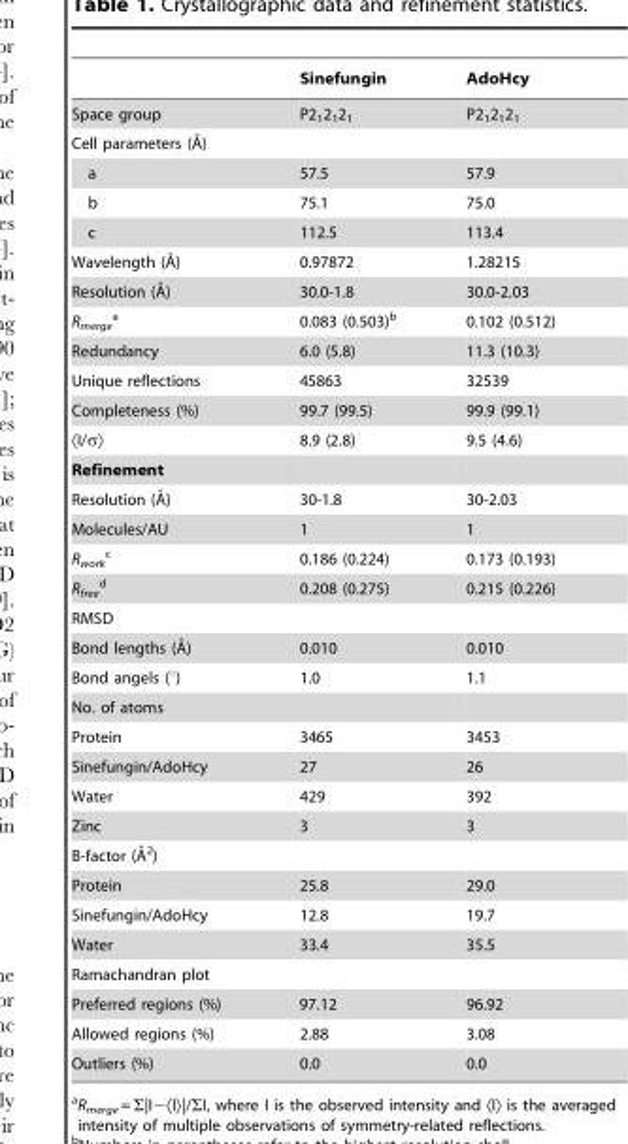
<table><thead><tr><td></td><td>Sinefungin</td><td>AdoHcy</td></tr></thead><tbody><tr><td>Space group</td><td>P2<sub>1</sub>2<sub>1</sub>2<sub>1</sub></td><td>P2<sub>1</sub>2<sub>1</sub>2<sub>1</sub></td></tr><tr><td colspan="3">Cell parameters (A˚)</td></tr><tr><td>a</td><td>57.5</td><td>57.9</td></tr><tr><td>b</td><td>75.1</td><td>75.0</td></tr><tr><td>c</td><td>112.5</td><td>113.4</td></tr><tr><td>Wavelength (A˚)</td><td>0.97872</td><td>1.28215</td></tr><tr><td>Resolution (A˚)</td><td>30.0-1.8</td><td>30.0-2.03</td></tr><tr><td>R<sub>merge</sub> a</td><td>0.083 (0.503)<sup>b</sup></td><td>0.102 (0.512)</td></tr><tr><td>Redundancy</td><td>6.0 (5.8)</td><td>11.3 (10.3)</td></tr><tr><td>Unique reflections</td><td>45863</td><td>32539</td></tr><tr><td>Completeness (%)</td><td>99.7 (99.5)</td><td>99.9 (99.1)</td></tr><tr><td>ÆI/sæ</td><td>8.9 (2.8)</td><td>9.5 (4.6)</td></tr><tr><td colspan="3">Refinement</td></tr><tr><td>Resolution (A˚)</td><td>30-1.8</td><td>30-2.03</td></tr><tr><td>Molecules/AU</td><td>1</td><td>1</td></tr><tr><td>R<sub>work</sub> c</td><td>0.186 (0.224)</td><td>0.173 (0.193)</td></tr><tr><td>R<sub>free</sub> d</td><td>0.208 (0.275)</td><td>0.215 (0.226)</td></tr><tr><td colspan="3">RMSD</td></tr><tr><td>Bond lengths (A˚)</td><td>0.010</td><td>0.010</td></tr><tr><td>Bond angels (°)</td><td>1.0</td><td>1.1</td></tr><tr><td colspan="3">No. of atoms</td></tr><tr><td>Protein</td><td>3465</td><td>3453</td></tr><tr><td>Sinefungin/AdoHcy</td><td>27</td><td>26</td></tr><tr><td>Water</td><td>429</td><td>392</td></tr><tr><td>Zinc</td><td>3</td><td>3</td></tr><tr><td colspan="3">B-factor (A˚ 2)</td></tr><tr><td>Protein</td><td>25.8</td><td>29.0</td></tr><tr><td>Sinefungin/AdoHcy</td><td>12.8</td><td>19.7</td></tr><tr><td>Water</td><td>33.4</td><td>35.5</td></tr><tr><td colspan="3">Ramachandran plot</td></tr><tr><td>Preferred regions (%)</td><td>97.12</td><td>96.92</td></tr><tr><td>Allowed regions (%)</td><td>2.88</td><td>3.08</td></tr><tr><td>Outliers (%)</td><td>0.0</td><td>0.0</td></tr></tbody></table>